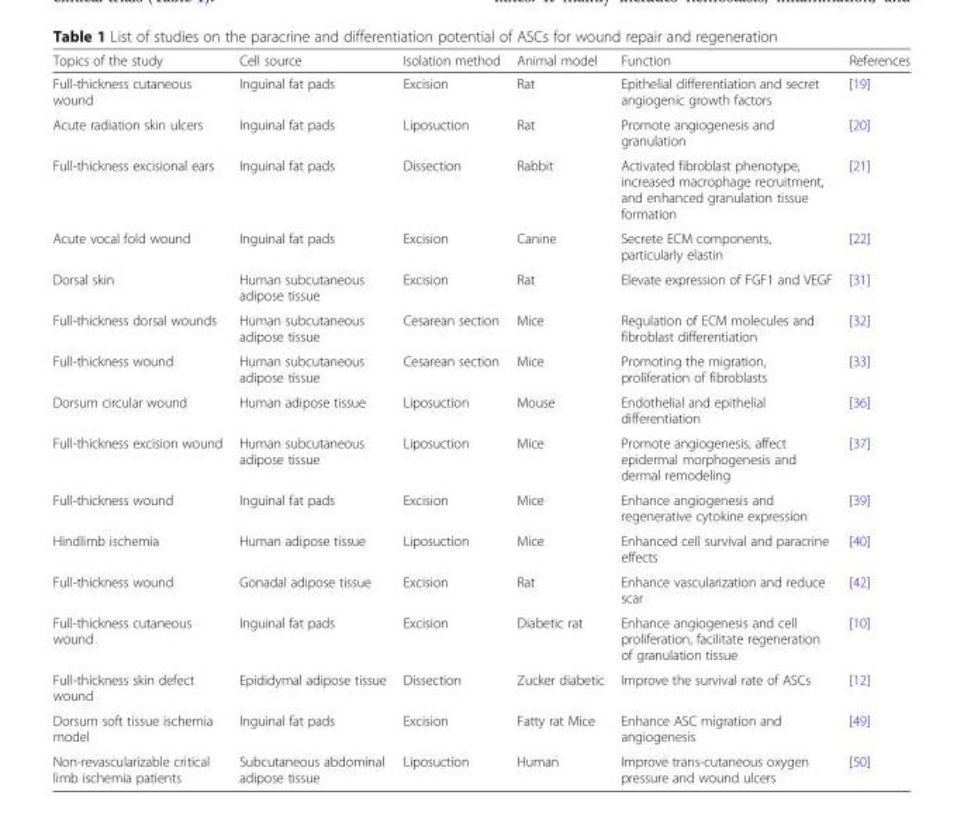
<table><thead><tr><td>Topics of the study</td><td>Cell source</td><td>Isolation method</td><td>Animal model</td><td>Function</td><td>References</td></tr></thead><tbody><tr><td>Full-thickness cutaneous wound</td><td>Inguinal fat pads</td><td>Excision</td><td>Rat</td><td>Epithelial differentiation and secret angiogenic growth factors</td><td>[19]</td></tr><tr><td>Acute radiation skin ulcers</td><td>Inguinal fat pads</td><td>Liposuction</td><td>Rat</td><td>Promote angiogenesis and granulation</td><td>[20]</td></tr><tr><td>Full-thickness excisional ears</td><td>Inguinal fat pads</td><td>Dissection</td><td>Rabbit</td><td>Activated fibroblast phenotype, increased macrophage recruitment, and enhanced granulation tissue formation</td><td>[21]</td></tr><tr><td>Acute vocal fold wound</td><td>Inguinal fat pads</td><td>Excision</td><td>Canine</td><td>Secrete ECM components, particularly elastin</td><td>[22]</td></tr><tr><td>Dorsal skin</td><td>Human subcutaneous adipose tissue</td><td>Excision</td><td>Rat</td><td>Elevate expression of FGF1 and VEGF</td><td>[31]</td></tr><tr><td>Full-thickness dorsal wounds</td><td>Human subcutaneous adipose tissue</td><td>Cesarean section</td><td>Mice</td><td>Regulation of ECM molecules and fibroblast differentiation</td><td>[32]</td></tr><tr><td>Full-thickness wound</td><td>Human subcutaneous adipose tissue</td><td>Cesarean section</td><td>Mice</td><td>Promoting the migration, proliferation of fibroblasts</td><td>[33]</td></tr><tr><td>Dorsum circular wound</td><td>Human adipose tissue</td><td>Liposuction</td><td>Mouse</td><td>Endothelial and epithelial differentiation</td><td>[36]</td></tr><tr><td>Full-thickness excision wound</td><td>Human subcutaneous adipose tissue</td><td>Liposuction</td><td>Mice</td><td>Promote angiogenesis, affect epidermal morphogenesis and dermal remodeling</td><td>[37]</td></tr><tr><td>Full-thickness wound</td><td>Inguinal fat pads</td><td>Excision</td><td>Mice</td><td>Enhance angiogenesis and regenerative cytokine expression</td><td>[39]</td></tr><tr><td>Hindlimb ischemia</td><td>Human adipose tissue</td><td>Liposuction</td><td>Mice</td><td>Enhanced cell survival and paracrine effects</td><td>[40]</td></tr><tr><td>Full-thickness wound</td><td>Gonadal adipose tissue</td><td>Excision</td><td>Rat</td><td>Enhance vascularization and reduce scar</td><td>[42]</td></tr><tr><td>Full-thickness cutaneous wound</td><td>Inguinal fat pads</td><td>Excision</td><td>Diabetic rat</td><td>Enhance angiogenesis and cell proliferation, facilitate regeneration of granulation tissue</td><td>[10]</td></tr><tr><td>Full-thickness skin defect wound</td><td>Epididymal adipose tissue</td><td>Dissection</td><td>Zucker diabetic</td><td>Improve the survival rate of ASCs</td><td>[12]</td></tr><tr><td>Dorsum soft tissue ischemia model</td><td>Inguinal fat pads</td><td>Excision</td><td>Fatty rat Mice</td><td>Enhance ASC migration and angiogenesis</td><td>[49]</td></tr><tr><td>Non-revascularizable critical limb ischemia patients</td><td>Subcutaneous abdominal adipose tissue</td><td>Liposuction</td><td>Human</td><td>Improve trans-cutaneous oxygen pressure and wound ulcers</td><td>[50]</td></tr></tbody></table>